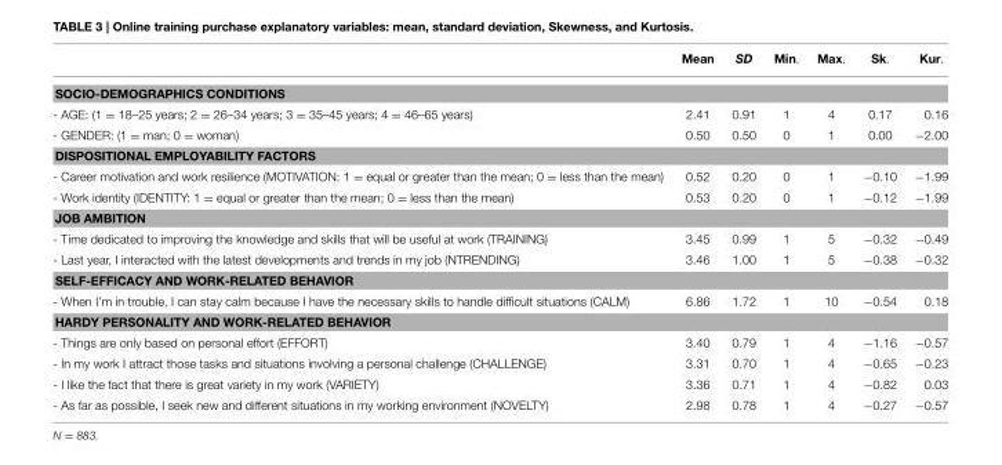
<table><thead><tr><td></td><td>Mean</td><td>SD</td><td>Min.</td><td>Max.</td><td>Sk.</td><td>Kur.</td></tr></thead><tbody><tr><td colspan="7">SOCIO-DEMOGRAPHICS CONDITIONS</td></tr><tr><td>- AGE: (1 = 18–25 years; 2 = 26–34 years; 3 = 35–45 years; 4 = 46–65 years)</td><td>2.41</td><td>0.91</td><td>1</td><td>4</td><td>0.17</td><td>0.16</td></tr><tr><td>- GENDER: (1 = man; 0 = woman)</td><td>0.50</td><td>0.50</td><td>0</td><td>1</td><td>0.00</td><td>−2.00</td></tr><tr><td colspan="7">DISPOSITIONAL EMPLOYABILITY FACTORS</td></tr><tr><td>- Career motivation and work resilience (MOTIVATION: 1 = equal or greater than the mean; 0 = less than the mean)</td><td>0.52</td><td>0.20</td><td>0</td><td>1</td><td>−0.10</td><td>−1.99</td></tr><tr><td>- Work identity (IDENTITY: 1 = equal or greater than the mean; 0 = less than the mean)</td><td>0.53</td><td>0.20</td><td>0</td><td>1</td><td>−0.12</td><td>−1.99</td></tr><tr><td colspan="7">JOB AMBITION</td></tr><tr><td>- Time dedicated to improving the knowledge and skills that will be useful at work (TRAINING)</td><td>3.45</td><td>0.99</td><td>1</td><td>5</td><td>−0.32</td><td>−0.49</td></tr><tr><td>- Last year, I interacted with the latest developments and trends in my job (NTRENDING)</td><td>3.46</td><td>1.00</td><td>1</td><td>5</td><td>−0.38</td><td>−0.32</td></tr><tr><td colspan="7">SELF-EFFICACY AND WORK-RELATED BEHAVIOR</td></tr><tr><td>- When I’m in trouble, I can stay calm because I have the necessary skills to handle difficult situations (CALM)</td><td>6.86</td><td>1.72</td><td>1</td><td>10</td><td>−0.54</td><td>0.18</td></tr><tr><td colspan="7">HARDY PERSONALITY AND WORK-RELATED BEHAVIOR</td></tr><tr><td>- Things are only based on personal effort (EFFORT)</td><td>3.40</td><td>0.79</td><td>1</td><td>4</td><td>−1.16</td><td>−0.57</td></tr><tr><td>- In my work I attract those tasks and situations involving a personal challenge (CHALLENGE)</td><td>3.31</td><td>0.70</td><td>1</td><td>4</td><td>−0.65</td><td>−0.23</td></tr><tr><td>- I like the fact that there is great variety in my work (VARIETY)</td><td>3.36</td><td>0.71</td><td>1</td><td>4</td><td>−0.82</td><td>0.03</td></tr><tr><td>- As far as possible, I seek new and different situations in my working environment (NOVELTY)</td><td>2.98</td><td>0.78</td><td>1</td><td>4</td><td>−0.27</td><td>−0.57</td></tr></tbody></table>